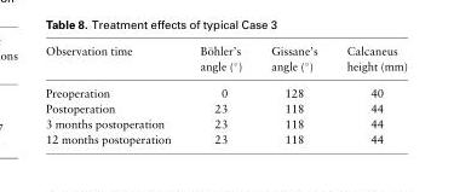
<table><thead><tr><td>Observation time</td><td>Bo¨hler’s angle (�)</td><td>Gissane’s angle (°)</td><td>Calcaneus height (mm)</td></tr></thead><tbody><tr><td>Preoperation</td><td>0</td><td>128</td><td>40</td></tr><tr><td>Postoperation</td><td>23</td><td>118</td><td>44</td></tr><tr><td>3 months postoperation</td><td>23</td><td>118</td><td>44</td></tr><tr><td>12 months postoperation</td><td>23</td><td>118</td><td>44</td></tr></tbody></table>